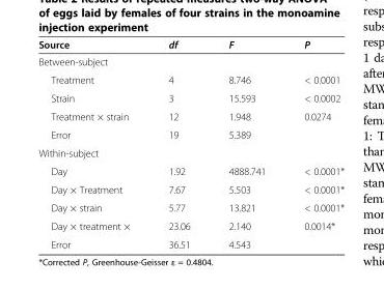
<table><thead><tr><td>Source</td><td>df</td><td>F</td><td>P</td></tr></thead><tbody><tr><td colspan="4">Between-subject</td></tr><tr><td>Treatment</td><td>4</td><td>8.746</td><td>&lt; 0.0001</td></tr><tr><td>Strain</td><td>3</td><td>15.593</td><td>&lt; 0.0002</td></tr><tr><td>Treatment × strain</td><td>12</td><td>1.948</td><td>0.0274</td></tr><tr><td>Error</td><td>19</td><td>5.389</td><td></td></tr><tr><td colspan="4">Within-subject</td></tr><tr><td>Day</td><td>1.92</td><td>4888.741</td><td>&lt; 0.0001*</td></tr><tr><td>Day × Treatment</td><td>7.67</td><td>5.503</td><td>&lt; 0.0001*</td></tr><tr><td>Day × strain</td><td>5.77</td><td>13.821</td><td>&lt; 0.0001*</td></tr><tr><td>Day × treatment ×</td><td>23.06</td><td>2.140</td><td>0.0014*</td></tr><tr><td>Error</td><td>36.51</td><td>4.543</td><td></td></tr></tbody></table>